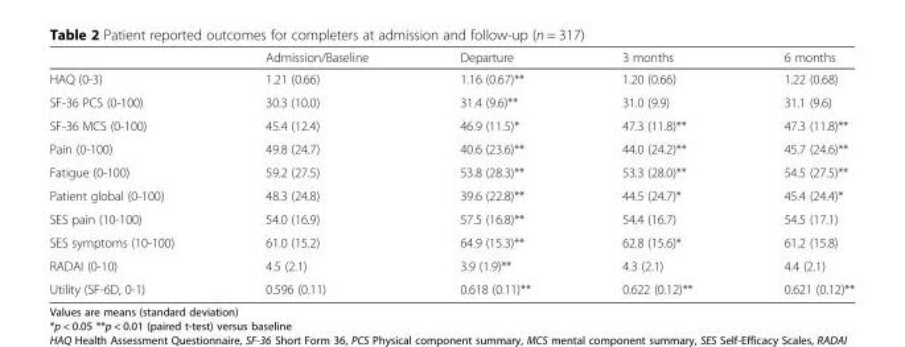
<table><thead><tr><td></td><td>Admission/Baseline</td><td>Departure</td><td>3 months</td><td>6 months</td></tr></thead><tbody><tr><td>HAQ (0-3)</td><td>1.21 (0.66)</td><td>1.16 (0.67)**</td><td>1.20 (0.66)</td><td>1.22 (0.68)</td></tr><tr><td>SF-36 PCS (0-100)</td><td>30.3 (10.0)</td><td>31.4 (9.6)**</td><td>31.0 (9.9)</td><td>31.1 (9.6)</td></tr><tr><td>SF-36 MCS (0-100)</td><td>45.4 (12.4)</td><td>46.9 (11.5)*</td><td>47.3 (11.8)**</td><td>47.3 (11.8)**</td></tr><tr><td>Pain (0-100)</td><td>49.8 (24.7)</td><td>40.6 (23.6)**</td><td>44.0 (24.2)**</td><td>45.7 (24.6)**</td></tr><tr><td>Fatigue (0-100)</td><td>59.2 (27.5)</td><td>53.8 (28.3)**</td><td>53.3 (28.0)**</td><td>54.5 (27.5)**</td></tr><tr><td>Patient global (0-100)</td><td>48.3 (24.8)</td><td>39.6 (22.8)**</td><td>44.5 (24.7)*</td><td>45.4 (24.4)*</td></tr><tr><td>SES pain (10-100)</td><td>54.0 (16.9)</td><td>57.5 (16.8)**</td><td>54.4 (16.7)</td><td>54.5 (17.1)</td></tr><tr><td>SES symptoms (10-100)</td><td>61.0 (15.2)</td><td>64.9 (15.3)**</td><td>62.8 (15.6)*</td><td>61.2 (15.8)</td></tr><tr><td>RADAI (0-10)</td><td>4.5 (2.1)</td><td>3.9 (1.9)**</td><td>4.3 (2.1)</td><td>4.4 (2.1)</td></tr><tr><td>Utility (SF-6D, 0-1)</td><td>0.596 (0.11)</td><td>0.618 (0.11)**</td><td>0.622 (0.12)**</td><td>0.621 (0.12)**</td></tr></tbody></table>